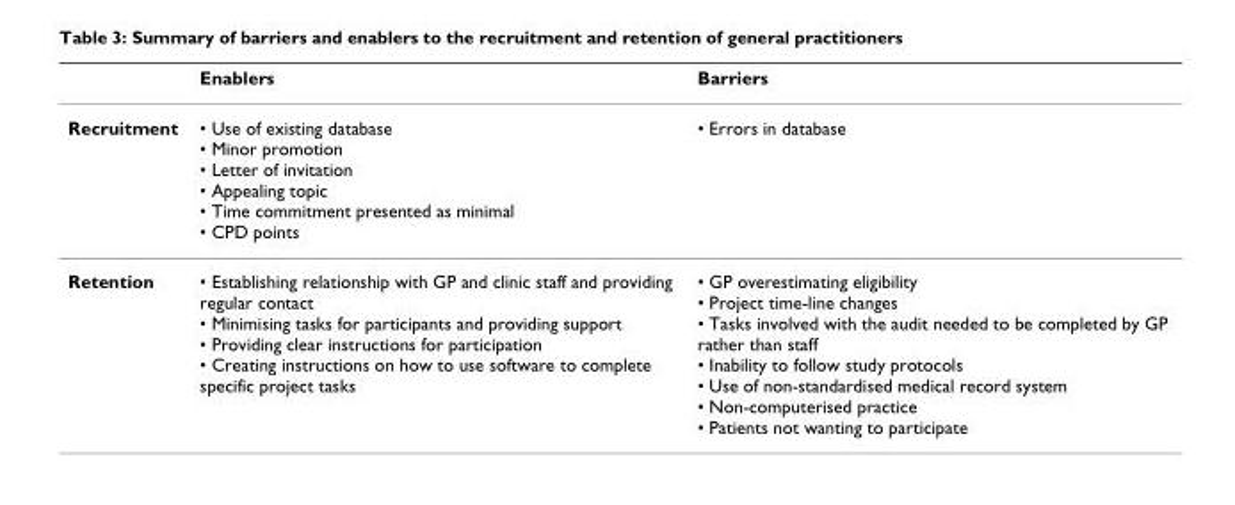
<table><thead><tr><td></td><td>Enablers</td><td>Barriers</td></tr></thead><tbody><tr><td>Recruitment</td><td>• Use of existing database • Minor promotion • Letter of invitation • Appealing topic • Time commitment presented as minimal • CPD points</td><td>• Errors in database</td></tr><tr><td>Retention</td><td>• Establishing relationship with GP and clinic staff and providing regular contact • Minimising tasks for participants and providing support • Providing clear instructions for participation • Creating instructions on how to use software to complete specific project tasks</td><td>• GP overestimating eligibility • Project time-line changes • Tasks involved with the audit needed to be completed by GP rather than staff • Inability to follow study protocols • Use of non-standardised medical record system • Non-computerised practice • Patients not wanting to participate</td></tr></tbody></table>